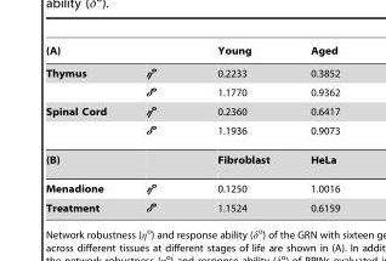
<table><thead><tr><td>(A)</td><td></td><td>Young</td><td>Aged</td></tr></thead><tbody><tr><td rowspan="2">Thymus</td><td>η<sup>o</sup></td><td>0.2233</td><td>0.3852</td></tr><tr><td>δ<sup>o</sup></td><td>1.1770</td><td>0.9362</td></tr><tr><td rowspan="2">Spinal Cord</td><td>η<sup>o</sup></td><td>0.2360</td><td>0.6417</td></tr><tr><td>δ<sup>o</sup></td><td>1.1936</td><td>0.9073</td></tr><tr><td>(B)</td><td></td><td>Fibroblast</td><td>HeLa</td></tr><tr><td>Menadione</td><td>η<sup>o</sup></td><td>0.1250</td><td>1.0016</td></tr><tr><td>Treatment</td><td>δ<sup>o</sup></td><td>1.1524</td><td>0.6159</td></tr></tbody></table>